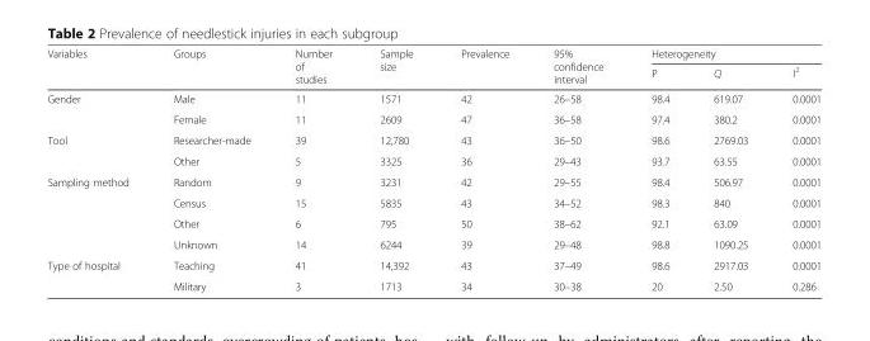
<table><thead><tr><td rowspan="2">Variables</td><td rowspan="2">Groups</td><td rowspan="2">Number of studies</td><td rowspan="2">Sample size</td><td rowspan="2">Prevalence</td><td rowspan="2">95% confidence interval</td><td colspan="3">Heterogeneity</td></tr><tr><td>P</td><td>Q</td><td>I<sup>2</sup></td></tr></thead><tbody><tr><td rowspan="2">Gender</td><td>Male</td><td>11</td><td>1571</td><td>42</td><td>26–58</td><td>98.4</td><td>619.07</td><td>0.0001</td></tr><tr><td>Female</td><td>11</td><td>2609</td><td>47</td><td>36–58</td><td>97.4</td><td>380.2</td><td>0.0001</td></tr><tr><td rowspan="2">Tool</td><td>Researcher-made</td><td>39</td><td>12,780</td><td>43</td><td>36–50</td><td>98.6</td><td>2769.03</td><td>0.0001</td></tr><tr><td>Other</td><td>5</td><td>3325</td><td>36</td><td>29–43</td><td>93.7</td><td>63.55</td><td>0.0001</td></tr><tr><td rowspan="4">Sampling method</td><td>Random</td><td>9</td><td>3231</td><td>42</td><td>29–55</td><td>98.4</td><td>506.97</td><td>0.0001</td></tr><tr><td>Census</td><td>15</td><td>5835</td><td>43</td><td>34–52</td><td>98.3</td><td>840</td><td>0.0001</td></tr><tr><td>Other</td><td>6</td><td>795</td><td>50</td><td>38–62</td><td>92.1</td><td>63.09</td><td>0.0001</td></tr><tr><td>Unknown</td><td>14</td><td>6244</td><td>39</td><td>29–48</td><td>98.8</td><td>1090.25</td><td>0.0001</td></tr><tr><td rowspan="2">Type of hospital</td><td>Teaching</td><td>41</td><td>14,392</td><td>43</td><td>37–49</td><td>98.6</td><td>2917.03</td><td>0.0001</td></tr><tr><td>Military</td><td>3</td><td>1713</td><td>34</td><td>30–38</td><td>20</td><td>2.50</td><td>0.286</td></tr></tbody></table>